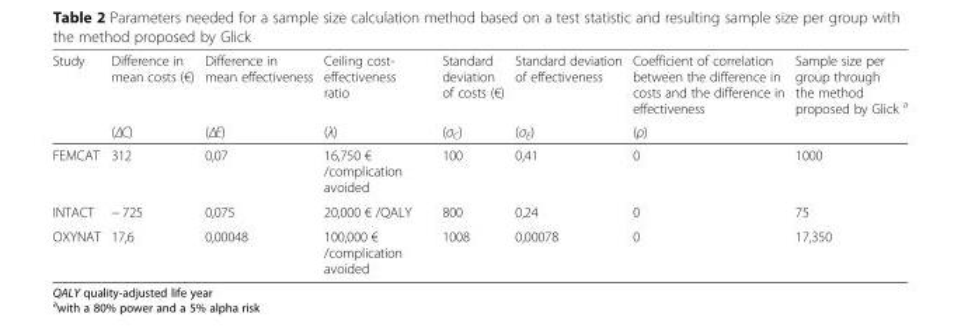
<table><thead><tr><td rowspan="2">Study</td><td rowspan="2">Difference in mean costs (€) (ΔC)</td><td rowspan="2">Difference in mean effectiveness (ΔE)</td><td rowspan="2">Ceiling cost- effectiveness ratio (λ)</td><td rowspan="2">Standard deviation of costs (€) (σ<sub>C</sub>)</td><td rowspan="2">Standard deviation of effectiveness (σ<sub>E</sub>)</td><td rowspan="2">Coefficient of correlation between the difference in costs and the difference in effectiveness (ρ)</td><td rowspan="2">Sample size per group through the method proposed by Glick <sup>a</sup></td></tr><tr></tr></thead><tbody><tr><td>FEMCAT</td><td>312</td><td>0,07</td><td>16,750 € /complication avoided</td><td>100</td><td>0,41</td><td>0</td><td>1000</td></tr><tr><td>INTACT</td><td>− 725</td><td>0,075</td><td>20,000 € /QALY</td><td>800</td><td>0,24</td><td>0</td><td>75</td></tr><tr><td>OXYNAT</td><td>17,6</td><td>0,00048</td><td>100,000 € /complication avoided</td><td>1008</td><td>0,00078</td><td>0</td><td>17,350</td></tr></tbody></table>